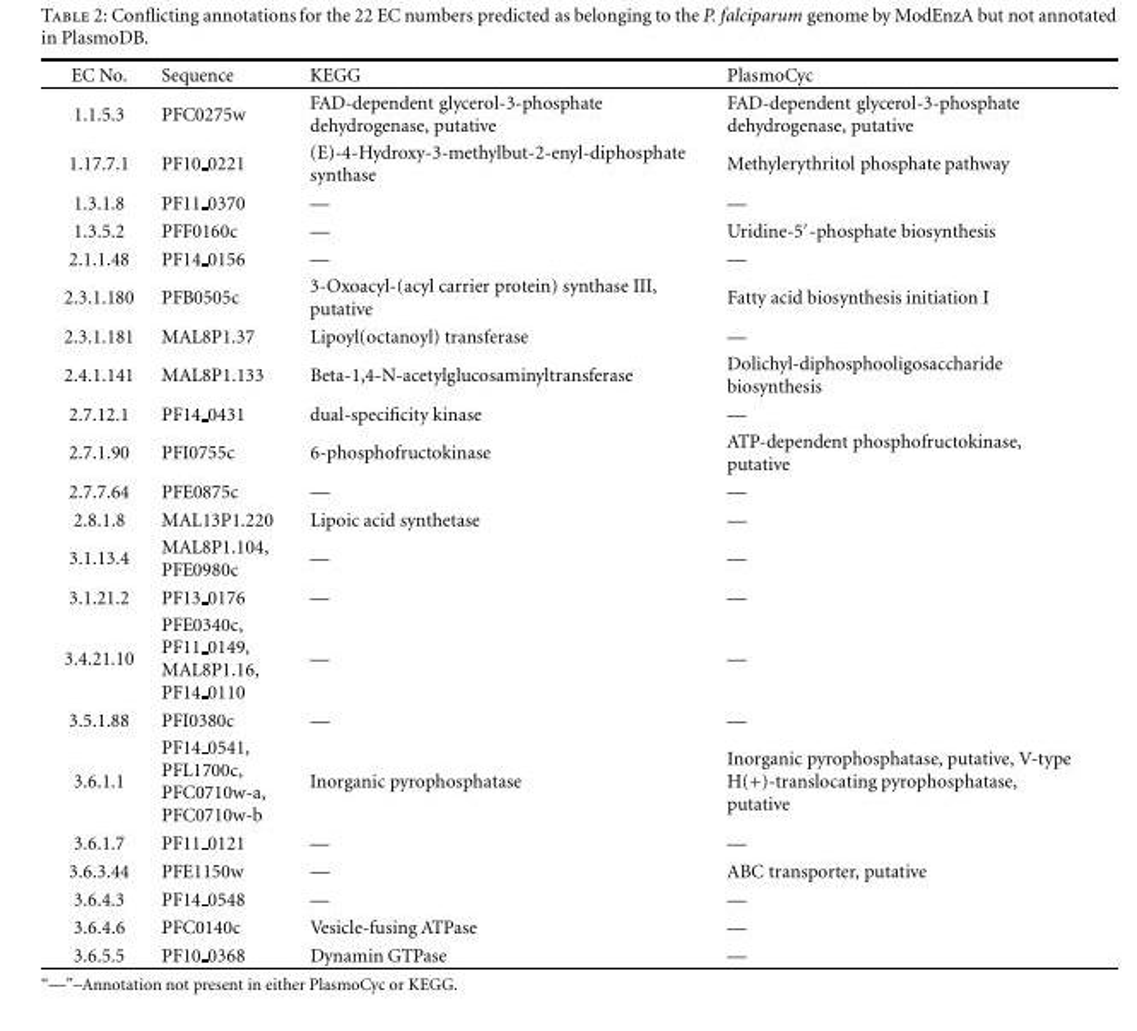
<table><thead><tr><td>EC No.</td><td>Sequence</td><td>KEGG</td><td>PlasmoCyc</td></tr></thead><tbody><tr><td>1.1.5.3</td><td>PFC0275w</td><td>FAD-dependent glycerol-3-phosphate dehydrogenase, putative</td><td>FAD-dependent glycerol-3-phosphate dehydrogenase, putative</td></tr><tr><td>1.17.7.1</td><td>PF10 0221</td><td>(E)-4-Hydroxy-3-methylbut-2-enyl-diphosphate synthase</td><td>Methylerythritol phosphate pathway</td></tr><tr><td>1.3.1.8</td><td>PF11 0370</td><td>—</td><td>—</td></tr><tr><td>1.3.5.2</td><td>PFF0160c</td><td>—</td><td>Uridine-5′-phosphate biosynthesis</td></tr><tr><td>2.1.1.48</td><td>PF14 0156</td><td>—</td><td>—</td></tr><tr><td>2.3.1.180</td><td>PFB0505c</td><td>3-Oxoacyl-(acyl carrier protein) synthase III, putative</td><td>Fatty acid biosynthesis initiation I</td></tr><tr><td>2.3.1.181</td><td>MAL8P1.37</td><td>Lipoyl(octanoyl) transferase</td><td>—</td></tr><tr><td>2.4.1.141</td><td>MAL8P1.133</td><td>Beta-1,4-N-acetylglucosaminyltransferase</td><td>Dolichyl-diphosphooligosaccharide biosynthesis</td></tr><tr><td>2.7.12.1</td><td>PF14 0431</td><td>dual-specificity kinase</td><td>—</td></tr><tr><td>2.7.1.90</td><td>PFI0755c</td><td>6-phosphofructokinase</td><td>ATP-dependent phosphofructokinase, putative</td></tr><tr><td>2.7.7.64</td><td>PFE0875c</td><td>—</td><td>—</td></tr><tr><td>2.8.1.8</td><td>MAL13P1.220</td><td>Lipoic acid synthetase</td><td>—</td></tr><tr><td>3.1.13.4</td><td>MAL8P1.104, PFE0980c</td><td>—</td><td>—</td></tr><tr><td>3.1.21.2</td><td>PF13 0176</td><td>—</td><td>—</td></tr><tr><td>3.4.21.10</td><td>PFE0340c, PF11 <sub>0149, MAL8P1.16, PF14</sub> 0110</td><td>—</td><td>—</td></tr><tr><td>3.5.1.88</td><td>PFI0380c</td><td>—</td><td>—</td></tr><tr><td>3.6.1.1</td><td>PF14 0541, PFL1700c, PFC0710w-a, PFC0710w-b</td><td>Inorganic pyrophosphatase</td><td>Inorganic pyrophosphatase, putative, V-type H(+)-translocating pyrophosphatase, putative</td></tr><tr><td>3.6.1.7</td><td>PF11 0121</td><td>—</td><td>—</td></tr><tr><td>3.6.3.44</td><td>PFE1150w</td><td>—</td><td>ABC transporter, putative</td></tr><tr><td>3.6.4.3</td><td>PF14 0548</td><td>—</td><td>—</td></tr><tr><td>3.6.4.6</td><td>PFC0140c</td><td>Vesicle-fusing ATPase</td><td>—</td></tr><tr><td>3.6.5.5</td><td>PF10 0368</td><td>Dynamin GTPase</td><td>—</td></tr></tbody></table>